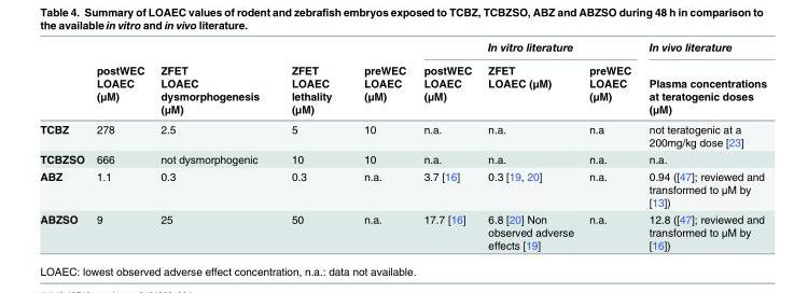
<table><thead><tr><td rowspan="3"></td><td rowspan="3">postWEC LOAEC (μM)</td><td rowspan="3">ZFET LOAEC dysmorphogenesis (μM)</td><td rowspan="3">ZFET LOAEC lethality (μM)</td><td rowspan="3">preWEC LOAEC (μM)</td><td colspan="3">In vitro literature</td><td rowspan="3">In vivo literature Plasma concentrations at teratogenic doses (μM)</td></tr><tr><td rowspan="2">postWEC LOAEC (μM)</td><td rowspan="2">ZFET LOAEC (μM)</td><td rowspan="2">preWEC LOAEC (μM)</td></tr><tr></tr></thead><tbody><tr><td>TCBZ</td><td>278</td><td>2.5</td><td>5</td><td>10</td><td>n.a.</td><td>n.a.</td><td>n.a</td><td>not teratogenic at a 200mg/kg dose [23]</td></tr><tr><td>TCBZSO</td><td>666</td><td>not dysmorphogenic</td><td>10</td><td>10</td><td>n.a.</td><td>n.a.</td><td>n.a.</td><td>n.a.</td></tr><tr><td>ABZ</td><td>1.1</td><td>0.3</td><td>0.3</td><td>n.a.</td><td>3.7 [16]</td><td>0.3 [19, 20]</td><td>n.a.</td><td>0.94 ([47]; reviewed and transformed to μM by [13])</td></tr><tr><td>ABZSO</td><td>9</td><td>25</td><td>50</td><td>n.a.</td><td>17.7 [16]</td><td>6.8 [20] Non observed adverse effects [19]</td><td>n.a.</td><td>12.8 ([47]; reviewed and transformed to μM by [16])</td></tr></tbody></table>